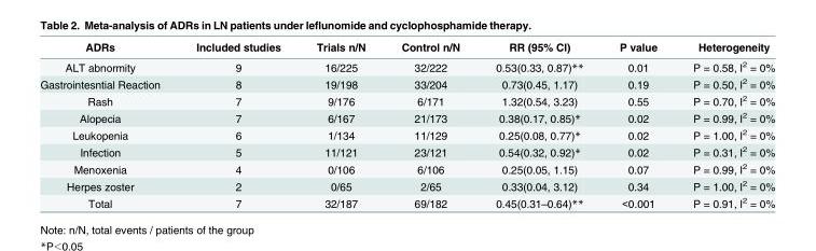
<table><thead><tr><td>ADRs</td><td>Included studies</td><td>Trials n/N</td><td>Control n/N</td><td>RR (95% CI)</td><td>P value</td><td>Heterogeneity</td></tr></thead><tbody><tr><td>ALT abnormity</td><td>9</td><td>16/225</td><td>32/222</td><td>0.53(0.33, 0.87)**</td><td>0.01</td><td>P = 0.58, I<sup>2</sup> = 0%</td></tr><tr><td>Gastrointesntial Reaction</td><td>8</td><td>19/198</td><td>33/204</td><td>0.73(0.45, 1.17)</td><td>0.19</td><td>P = 0.50, I<sup>2</sup> = 0%</td></tr><tr><td>Rash</td><td>7</td><td>9/176</td><td>6/171</td><td>1.32(0.54, 3.23)</td><td>0.55</td><td>P = 0.70, I<sup>2</sup> = 0%</td></tr><tr><td>Alopecia</td><td>7</td><td>6/167</td><td>21/173</td><td>0.38(0.17, 0.85)*</td><td>0.02</td><td>P = 0.99, I<sup>2</sup> = 0%</td></tr><tr><td>Leukopenia</td><td>6</td><td>1/134</td><td>11/129</td><td>0.25(0.08, 0.77)*</td><td>0.02</td><td>P = 1.00, I<sup>2</sup> = 0%</td></tr><tr><td>Infection</td><td>5</td><td>11/121</td><td>23/121</td><td>0.54(0.32, 0.92)*</td><td>0.02</td><td>P = 0.31, I<sup>2</sup> = 0%</td></tr><tr><td>Menoxenia</td><td>4</td><td>0/106</td><td>6/106</td><td>0.25(0.05, 1.15)</td><td>0.07</td><td>P = 0.99, I<sup>2</sup> = 0%</td></tr><tr><td>Herpes zoster</td><td>2</td><td>0/65</td><td>2/65</td><td>0.33(0.04, 3.12)</td><td>0.34</td><td>P = 1.00, I<sup>2</sup> = 0%</td></tr><tr><td>Total</td><td>7</td><td>32/187</td><td>69/182</td><td>0.45(0.31–0.64)**</td><td>&lt;0.001</td><td>P = 0.91, I<sup>2</sup> = 0%</td></tr></tbody></table>